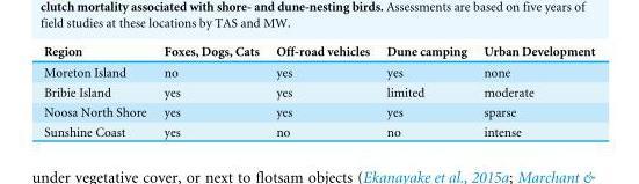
<table><thead><tr><td>Region</td><td>Foxes, Dogs, Cats</td><td>Off-road vehicles</td><td>Dune camping</td><td>Urban Development</td></tr></thead><tbody><tr><td>Moreton Island</td><td>no</td><td>yes</td><td>yes</td><td>none</td></tr><tr><td>Bribie Island</td><td>yes</td><td>yes</td><td>limited</td><td>moderate</td></tr><tr><td>Noosa North Shore</td><td>yes</td><td>yes</td><td>yes</td><td>sparse</td></tr><tr><td>Sunshine Coast</td><td>yes</td><td>no</td><td>no</td><td>intense</td></tr></tbody></table>